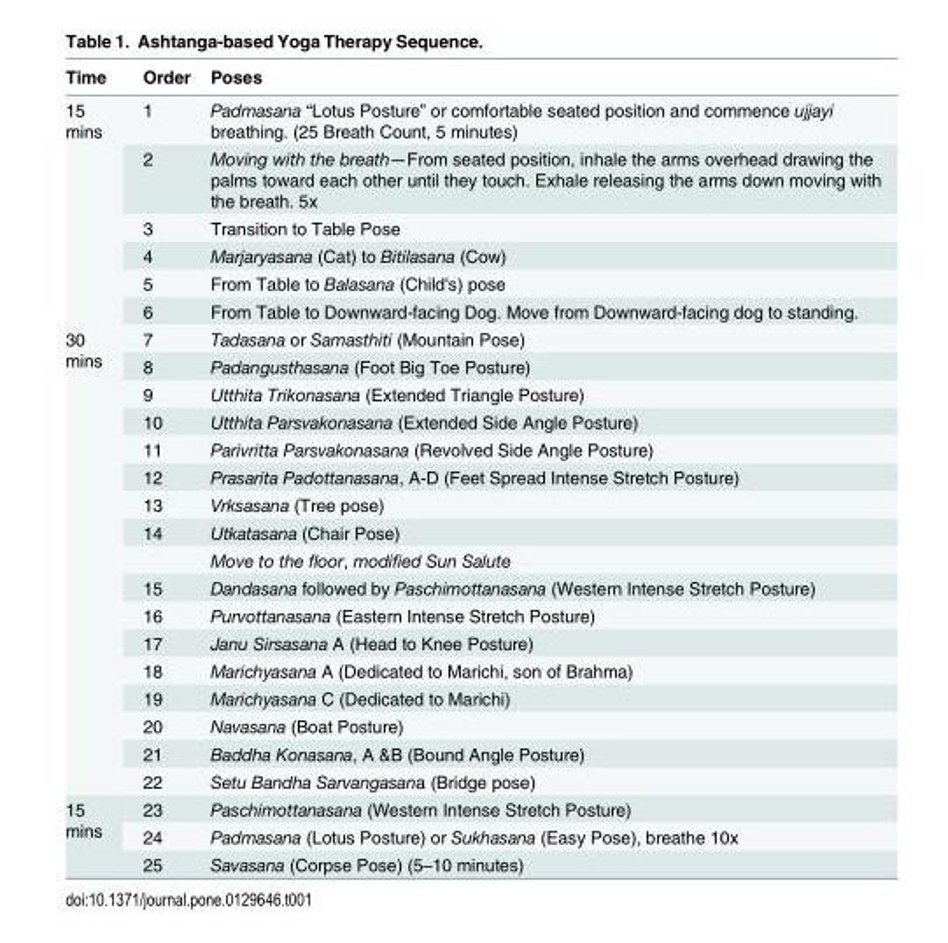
<table><thead><tr><td>Time</td><td>Order</td><td>Poses</td></tr></thead><tbody><tr><td rowspan="6">15 mins</td><td>1</td><td>Padmasana “Lotus Posture” or comfortable seated position and commence ujjayi breathing. (25 Breath Count, 5 minutes)</td></tr><tr><td>2</td><td>Moving with the breath—From seated position, inhale the arms overhead drawing the palms toward each other until they touch. Exhale releasing the arms down moving with the breath. 5x</td></tr><tr><td>3</td><td>Transition to Table Pose</td></tr><tr><td>4</td><td>Marjaryasana (Cat) to Bitilasana (Cow)</td></tr><tr><td>5</td><td>From Table to Balasana (Child&#x27;s) pose</td></tr><tr><td>6</td><td>From Table to Downward-facing Dog. Move from Downward-facing dog to standing.</td></tr><tr><td rowspan="17">30 mins</td><td>7</td><td>Tadasana or Samasthiti (Mountain Pose)</td></tr><tr><td>8</td><td>Padangusthasana (Foot Big Toe Posture)</td></tr><tr><td>9</td><td>Utthita Trikonasana (Extended Triangle Posture)</td></tr><tr><td>10</td><td>Utthita Parsvakonasana (Extended Side Angle Posture)</td></tr><tr><td>11</td><td>Parivritta Parsvakonasana (Revolved Side Angle Posture)</td></tr><tr><td>12</td><td>Prasarita Padottanasana, A-D (Feet Spread Intense Stretch Posture)</td></tr><tr><td>13</td><td>Vrksasana (Tree pose)</td></tr><tr><td>14</td><td>Utkatasana (Chair Pose)</td></tr><tr><td></td><td>Move to the floor, modified Sun Salute</td></tr><tr><td>15</td><td>Dandasana followed by Paschimottanasana (Western Intense Stretch Posture)</td></tr><tr><td>16</td><td>Purvottanasana (Eastern Intense Stretch Posture)</td></tr><tr><td>17</td><td>Janu Sirsasana A (Head to Knee Posture)</td></tr><tr><td>18</td><td>Marichyasana A (Dedicated to Marichi, son of Brahma)</td></tr><tr><td>19</td><td>Marichyasana C (Dedicated to Marichi)</td></tr><tr><td>20</td><td>Navasana (Boat Posture)</td></tr><tr><td>21</td><td>Baddha Konasana, A &amp;B (Bound Angle Posture)</td></tr><tr><td>22</td><td>Setu Bandha Sarvangasana (Bridge pose)</td></tr><tr><td rowspan="3">15 mins</td><td>23</td><td>Paschimottanasana (Western Intense Stretch Posture)</td></tr><tr><td>24</td><td>Padmasana (Lotus Posture) or Sukhasana (Easy Pose), breathe 10x</td></tr><tr><td>25</td><td>Savasana (Corpse Pose) (5–10 minutes)</td></tr></tbody></table>